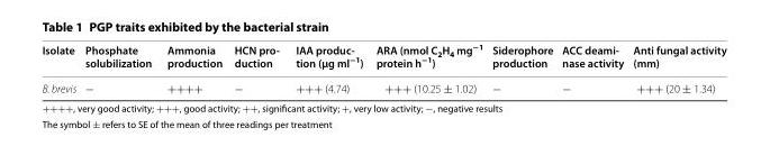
<table><thead><tr><td>Isolate</td><td>Phosphate solubilization</td><td>Ammonia production</td><td>HCN pro- duction</td><td>IAA produc- tion (μg ml−1)</td><td>ARA (nmol C<sub>2</sub>H<sub>4</sub> mg<sup>−1</sup> protein h<sup>−1</sup>)</td><td>Siderophore production</td><td>ACC deami- nase activity</td><td>Anti fungal activity (mm)</td></tr></thead><tbody><tr><td>B. brevis</td><td>−</td><td>++++</td><td>−</td><td>+++ (4.74)</td><td>+++ (10.25 ± 1.02)</td><td>−</td><td>−</td><td>+++ (20 ± 1.34)</td></tr></tbody></table>